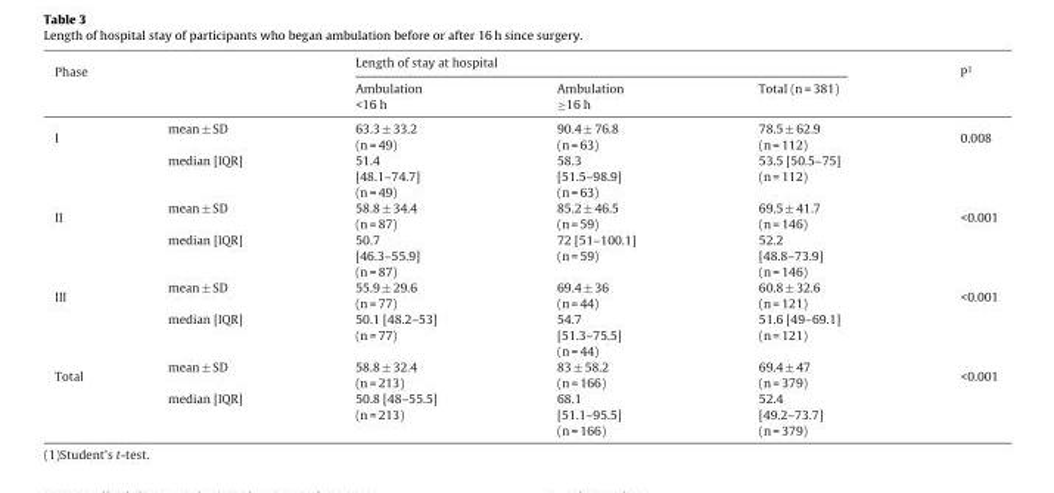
<table><thead><tr><td rowspan="2">Phase</td><td rowspan="2"></td><td colspan="3">Length of stay at hospital</td><td rowspan="2">P<sup>1</sup></td></tr><tr><td>Ambulation &lt;16 h</td><td>Ambulation ≥16 h</td><td>Total (n = 381)</td></tr></thead><tbody><tr><td rowspan="2">I</td><td>mean ± SD</td><td>63.3 ± 33.2 (n = 49)</td><td>90.4 ± 76.8 (n = 63)</td><td>78.5 ± 62.9 (n = 112)</td><td rowspan="2">0.008</td></tr><tr><td>median [IQR]</td><td>51.4 [48.1–74.7] (n = 49)</td><td>58.3 [51.5–98.9] (n = 63)</td><td>53.5 [50.5–75] (n = 112)</td></tr><tr><td rowspan="2">II</td><td>mean ± SD</td><td>58.8 ± 34.4 (n = 87)</td><td>85.2 ± 46.5 (n = 59)</td><td>69.5 ± 41.7 (n = 146)</td><td rowspan="2">&lt;0.001</td></tr><tr><td>median [IQR]</td><td>50.7 [46.3–55.9] (n = 87)</td><td>72 [51–100.1] (n = 59)</td><td>52.2 [48.8–73.9] (n = 146)</td></tr><tr><td rowspan="2">III</td><td>mean ± SD</td><td>55.9 ± 29.6 (n = 77)</td><td>69.4 ± 36 (n = 44)</td><td>60.8 ± 32.6 (n = 121)</td><td rowspan="2">&lt;0.001</td></tr><tr><td>median [IQR]</td><td>50.1 [48.2–53] (n = 77)</td><td>54.7 [51.3–75.5] (n = 44)</td><td>51.6 [49–69.1] (n = 121)</td></tr><tr><td rowspan="2">Total</td><td>mean ± SD</td><td>58.8 ± 32.4 (n = 213)</td><td>83 ± 58.2 (n = 166)</td><td>69.4 ± 47 (n = 379)</td><td rowspan="2">&lt;0.001</td></tr><tr><td>median [IQR]</td><td>50.8 [48–55.5] (n = 213)</td><td>68.1 [51.1–95.5] (n = 166)</td><td>52.4 [49.2–73.7] (n = 379)</td></tr></tbody></table>